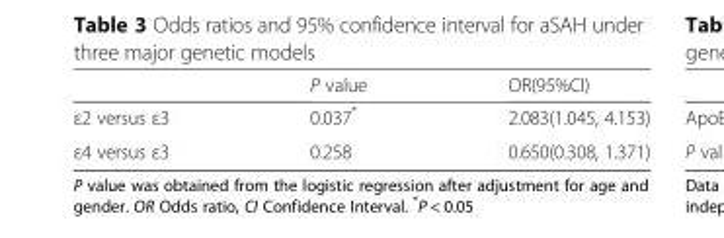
<table><thead><tr><td></td><td>P value</td><td>OR(95%CI)</td></tr></thead><tbody><tr><td>ε2 versus ε3</td><td>0.037*</td><td>2.083(1.045, 4.153)</td></tr><tr><td>ε4 versus ε3</td><td>0.258</td><td>0.650(0.308, 1.371)</td></tr></tbody></table>